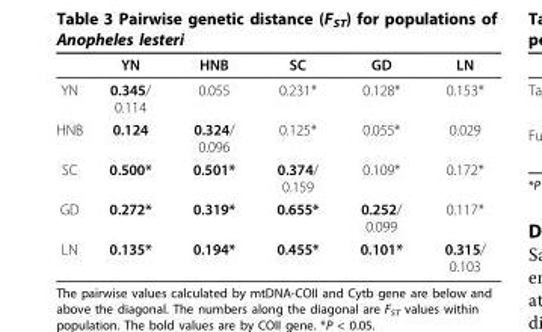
<table><thead><tr><td></td><td>YN</td><td>HNB</td><td>SC</td><td>GD</td><td>LN</td></tr></thead><tbody><tr><td>YN</td><td>0.345/ 0.114</td><td>0.055</td><td>0.231*</td><td>0.128*</td><td>0.153*</td></tr><tr><td>HNB</td><td>0.124</td><td>0.324/ 0.096</td><td>0.125*</td><td>0.055*</td><td>0.029</td></tr><tr><td>SC</td><td>0.500*</td><td>0.501*</td><td>0.374/ 0.159</td><td>0.109*</td><td>0.172*</td></tr><tr><td>GD</td><td>0.272*</td><td>0.319*</td><td>0.655*</td><td>0.252/ 0.099</td><td>0.117*</td></tr><tr><td>LN</td><td>0.135*</td><td>0.194*</td><td>0.455*</td><td>0.101*</td><td>0.315/ 0.103</td></tr></tbody></table>